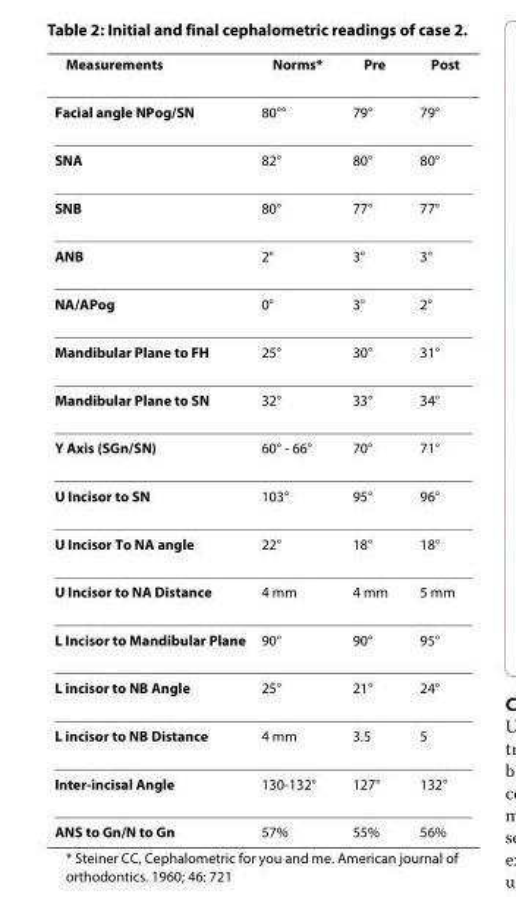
<table><thead><tr><td>Measurements</td><td>Norms*</td><td>Pre</td><td>Post</td></tr></thead><tbody><tr><td>Facial angle NPog/SN</td><td>80°°</td><td>79°</td><td>79°</td></tr><tr><td>SNA</td><td>82°</td><td>80°</td><td>80°</td></tr><tr><td>SNB</td><td>80°</td><td>77°</td><td>77°</td></tr><tr><td>ANB</td><td>2°</td><td>3°</td><td>3°</td></tr><tr><td>NA/APog</td><td>0°</td><td>3°</td><td>2°</td></tr><tr><td>Mandibular Plane to FH</td><td>25°</td><td>30°</td><td>31°</td></tr><tr><td>Mandibular Plane to SN</td><td>32°</td><td>33°</td><td>34°</td></tr><tr><td>Y Axis (SGn/SN)</td><td>60° - 66°</td><td>70°</td><td>71°</td></tr><tr><td>U Incisor to SN</td><td>103°</td><td>95°</td><td>96°</td></tr><tr><td>U Incisor To NA angle</td><td>22°</td><td>18°</td><td>18°</td></tr><tr><td>U Incisor to NA Distance</td><td>4 mm</td><td>4 mm</td><td>5 mm</td></tr><tr><td>L Incisor to Mandibular Plane</td><td>90°</td><td>90°</td><td>95°</td></tr><tr><td>L incisor to NB Angle</td><td>25°</td><td>21°</td><td>24°</td></tr><tr><td>L incisor to NB Distance</td><td>4 mm</td><td>3.5</td><td>5</td></tr><tr><td>Inter-incisal Angle</td><td>130-132°</td><td>127°</td><td>132°</td></tr><tr><td>ANS to Gn/N to Gn</td><td>57%</td><td>55%</td><td>56%</td></tr></tbody></table>